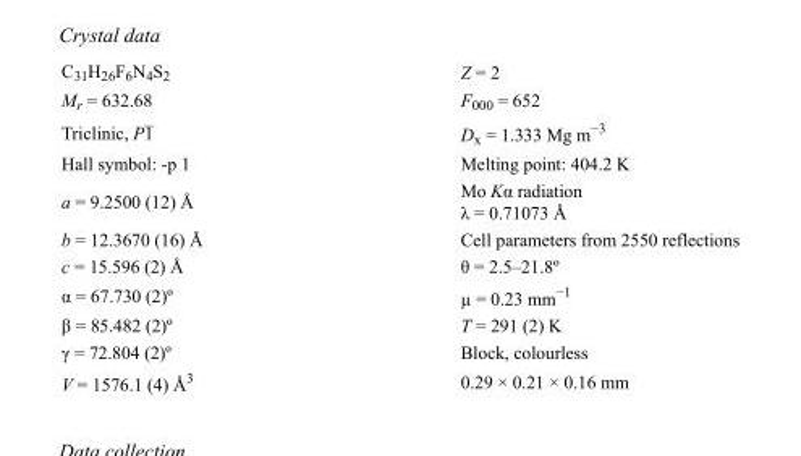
<table><tbody><tr><td>C<sub>31</sub>H<sub>26</sub>F<sub>6</sub>N<sub>4</sub>S<sub>2</sub></td><td>Z = 2</td></tr><tr><td>M<sub>r</sub> = 632.68</td><td>F<sub>000</sub> = 652</td></tr><tr><td>Triclinic, P1</td><td>D<sub>x</sub> = 1.333 Mg m<sup>−3</sup></td></tr><tr><td>Hall symbol: -p 1</td><td>Melting point: 404.2 K</td></tr><tr><td>a = 9.2500 (12) Å</td><td>Mo Kα radiation λ = 0.71073 Å</td></tr><tr><td>b = 12.3670 (16) Å</td><td>Cell parameters from 2550 reflections</td></tr><tr><td>c = 15.596 (2) Å</td><td>θ = 2.5–21.8º</td></tr><tr><td>α = 67.730 (2)º</td><td>µ = 0.23 mm<sup>−1</sup></td></tr><tr><td>β = 85.482 (2)º</td><td>T = 291 (2) K</td></tr><tr><td>γ = 72.804 (2)º</td><td>Block, colourless</td></tr><tr><td>V = 1576.1 (4) Å<sup>3</sup></td><td>0.29 × 0.21 × 0.16 mm</td></tr></tbody></table>